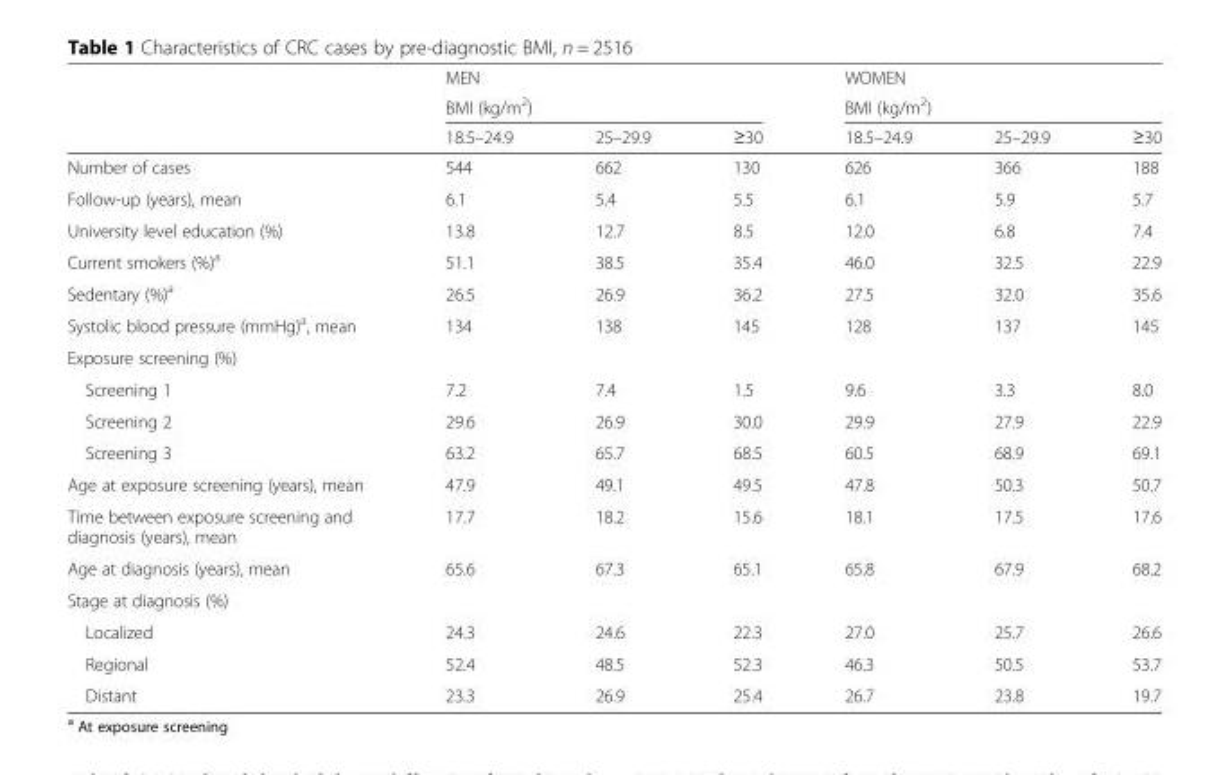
<table><thead><tr><td rowspan="3"></td><td rowspan="2" colspan="3">MEN BMI (kg/m<sup>2</sup>)</td><td rowspan="2" colspan="3">WOMEN BMI (kg/m<sup>2</sup>)</td></tr><tr></tr><tr><td>18.5–24.9</td><td>25–29.9</td><td>≥30</td><td>18.5–24.9</td><td>25–29.9</td><td>≥30</td></tr></thead><tbody><tr><td>Number of cases</td><td>544</td><td>662</td><td>130</td><td>626</td><td>366</td><td>188</td></tr><tr><td>Follow-up (years), mean</td><td>6.1</td><td>5.4</td><td>5.5</td><td>6.1</td><td>5.9</td><td>5.7</td></tr><tr><td>University level education (%)</td><td>13.8</td><td>12.7</td><td>8.5</td><td>12.0</td><td>6.8</td><td>7.4</td></tr><tr><td>Current smokers (%)<sup>a</sup></td><td>51.1</td><td>38.5</td><td>35.4</td><td>46.0</td><td>32.5</td><td>22.9</td></tr><tr><td>Sedentary (%)<sup>a</sup></td><td>26.5</td><td>26.9</td><td>36.2</td><td>27.5</td><td>32.0</td><td>35.6</td></tr><tr><td>Systolic blood pressure (mmHg)<sup>a</sup>, mean</td><td>134</td><td>138</td><td>145</td><td>128</td><td>137</td><td>145</td></tr><tr><td colspan="7">Exposure screening (%)</td></tr><tr><td>Screening 1</td><td>7.2</td><td>7.4</td><td>1.5</td><td>9.6</td><td>3.3</td><td>8.0</td></tr><tr><td>Screening 2</td><td>29.6</td><td>26.9</td><td>30.0</td><td>29.9</td><td>27.9</td><td>22.9</td></tr><tr><td>Screening 3</td><td>63.2</td><td>65.7</td><td>68.5</td><td>60.5</td><td>68.9</td><td>69.1</td></tr><tr><td>Age at exposure screening (years), mean</td><td>47.9</td><td>49.1</td><td>49.5</td><td>47.8</td><td>50.3</td><td>50.7</td></tr><tr><td>Time between exposure screening and diagnosis (years), mean</td><td>17.7</td><td>18.2</td><td>15.6</td><td>18.1</td><td>17.5</td><td>17.6</td></tr><tr><td>Age at diagnosis (years), mean</td><td>65.6</td><td>67.3</td><td>65.1</td><td>65.8</td><td>67.9</td><td>68.2</td></tr><tr><td colspan="7">Stage at diagnosis (%)</td></tr><tr><td>Localized</td><td>24.3</td><td>24.6</td><td>22.3</td><td>27.0</td><td>25.7</td><td>26.6</td></tr><tr><td>Regional</td><td>52.4</td><td>48.5</td><td>52.3</td><td>46.3</td><td>50.5</td><td>53.7</td></tr><tr><td>Distant</td><td>23.3</td><td>26.9</td><td>25.4</td><td>26.7</td><td>23.8</td><td>19.7</td></tr></tbody></table>